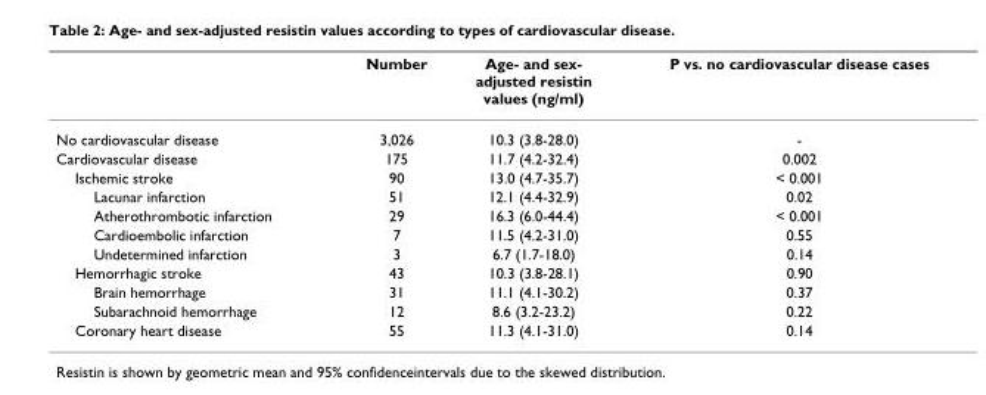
<table><thead><tr><td></td><td>Number</td><td>Age- and sex- adjusted resistin values (ng/ml)</td><td>P vs. no cardiovascular disease cases</td></tr></thead><tbody><tr><td>No cardiovascular disease</td><td>3,026</td><td>10.3 (3.8-28.0)</td><td>-</td></tr><tr><td>Cardiovascular disease</td><td>175</td><td>11.7 (4.2-32.4)</td><td>0.002</td></tr><tr><td>Ischemic stroke</td><td>90</td><td>13.0 (4.7-35.7)</td><td>&lt; 0.001</td></tr><tr><td>Lacunar infarction</td><td>51</td><td>12.1 (4.4-32.9)</td><td>0.02</td></tr><tr><td>Atherothrombotic infarction</td><td>29</td><td>16.3 (6.0-44.4)</td><td>&lt; 0.001</td></tr><tr><td>Cardioembolic infarction</td><td>7</td><td>11.5 (4.2-31.0)</td><td>0.55</td></tr><tr><td>Undetermined infarction</td><td>3</td><td>6.7 (1.7-18.0)</td><td>0.14</td></tr><tr><td>Hemorrhagic stroke</td><td>43</td><td>10.3 (3.8-28.1)</td><td>0.90</td></tr><tr><td>Brain hemorrhage</td><td>31</td><td>11.1 (4.1-30.2)</td><td>0.37</td></tr><tr><td>Subarachnoid hemorrhage</td><td>12</td><td>8.6 (3.2-23.2)</td><td>0.22</td></tr><tr><td>Coronary heart disease</td><td>55</td><td>11.3 (4.1-31.0)</td><td>0.14</td></tr></tbody></table>